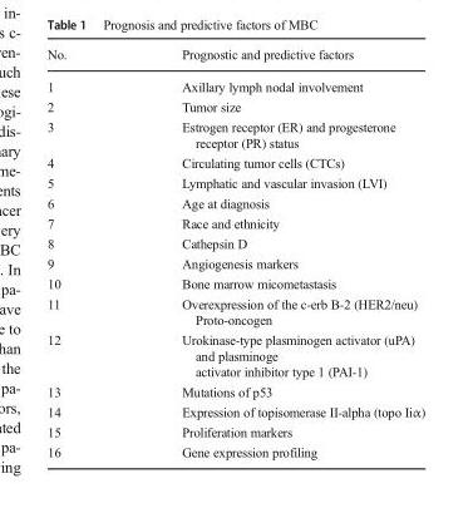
<table><thead><tr><td>No.</td><td>Prognostic and predictive factors</td></tr></thead><tbody><tr><td>1</td><td>Axillary lymph nodal involvement</td></tr><tr><td>2</td><td>Tumor size</td></tr><tr><td>3</td><td>Estrogen receptor (ER) and progesterone receptor (PR) status</td></tr><tr><td>4</td><td>Circulating tumor cells (CTCs)</td></tr><tr><td>5</td><td>Lymphatic and vascular invasion (LVI)</td></tr><tr><td>6</td><td>Age at diagnosis</td></tr><tr><td>7</td><td>Race and ethnicity</td></tr><tr><td>8</td><td>Cathepsin D</td></tr><tr><td>9</td><td>Angiogenesis markers</td></tr><tr><td>10</td><td>Bone marrow micometastasis</td></tr><tr><td>11</td><td>Overexpression of the c-erb B-2 (HER2/neu) Proto-oncogen</td></tr><tr><td>12</td><td>Urokinase-type plasminogen activator (uPA) and plasminoge activator inhibitor type 1 (PAI-1)</td></tr><tr><td>13</td><td>Mutations of p53</td></tr><tr><td>14</td><td>Expression of topisomerase II-alpha (topo Iiα)</td></tr><tr><td>15</td><td>Proliferation markers</td></tr><tr><td>16</td><td>Gene expression profiling</td></tr></tbody></table>